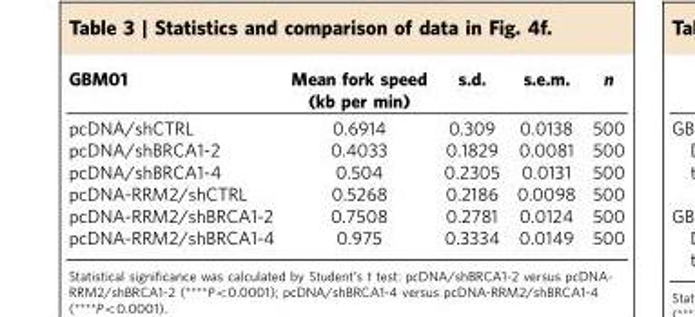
<table><thead><tr><td>GBM01</td><td>Mean fork speed (kb per min)</td><td>s.d.</td><td>s.e.m.</td><td>n</td></tr></thead><tbody><tr><td>pcDNA/shCTRL</td><td>0.6914</td><td>0.309</td><td>0.0138</td><td>500</td></tr><tr><td>pcDNA/shBRCA1-2</td><td>0.4033</td><td>0.1829</td><td>0.0081</td><td>500</td></tr><tr><td>pcDNA/shBRCA1-4</td><td>0.504</td><td>0.2305</td><td>0.0131</td><td>500</td></tr><tr><td>pcDNA-RRM2/shCTRL</td><td>0.5268</td><td>0.2186</td><td>0.0098</td><td>500</td></tr><tr><td>pcDNA-RRM2/shBRCA1-2</td><td>0.7508</td><td>0.2781</td><td>0.0124</td><td>500</td></tr><tr><td>pcDNA-RRM2/shBRCA1-4</td><td>0.975</td><td>0.3334</td><td>0.0149</td><td>500</td></tr></tbody></table>